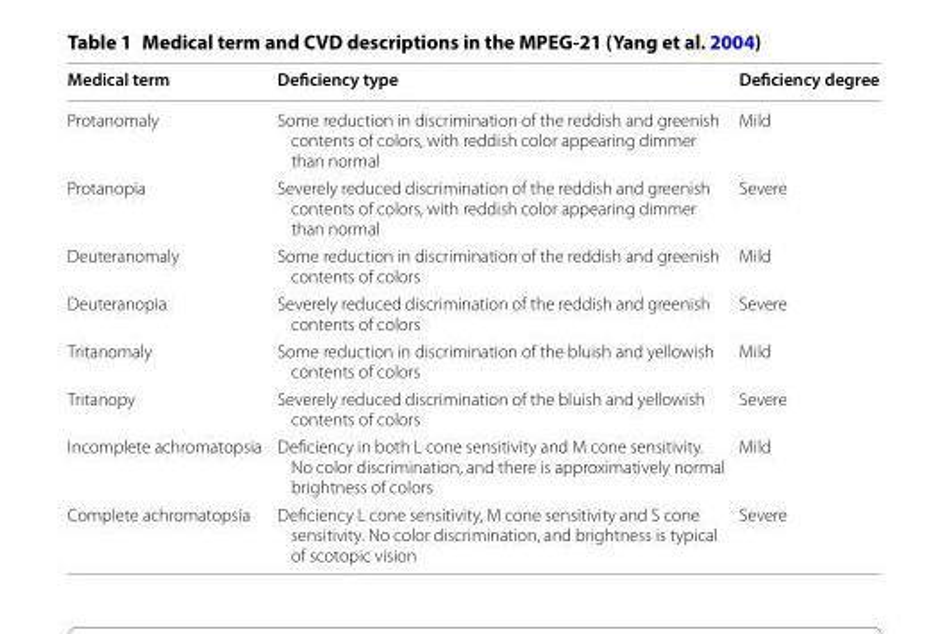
<table><thead><tr><td>Medical term</td><td>Deficiency type</td><td>Deficiency degree</td></tr></thead><tbody><tr><td>Protanomaly</td><td>Some reduction in discrimination of the reddish and greenish contents of colors, with reddish color appearing dimmer than normal</td><td>Mild</td></tr><tr><td>Protanopia</td><td>Severely reduced discrimination of the reddish and greenish contents of colors, with reddish color appearing dimmer than normal</td><td>Severe</td></tr><tr><td>Deuteranomaly</td><td>Some reduction in discrimination of the reddish and greenish contents of colors</td><td>Mild</td></tr><tr><td>Deuteranopia</td><td>Severely reduced discrimination of the reddish and greenish contents of colors</td><td>Severe</td></tr><tr><td>Tritanomaly</td><td>Some reduction in discrimination of the bluish and yellowish contents of colors</td><td>Mild</td></tr><tr><td>Tritanopy</td><td>Severely reduced discrimination of the bluish and yellowish contents of colors</td><td>Severe</td></tr><tr><td>Incomplete achromatopsia</td><td>Deficiency in both L cone sensitivity and M cone sensitivity. No color discrimination, and there is approximatively normal brightness of colors</td><td>Mild</td></tr><tr><td>Complete achromatopsia</td><td>Deficiency L cone sensitivity, M cone sensitivity and S cone sensitivity. No color discrimination, and brightness is typical of scotopic vision</td><td>Severe</td></tr></tbody></table>